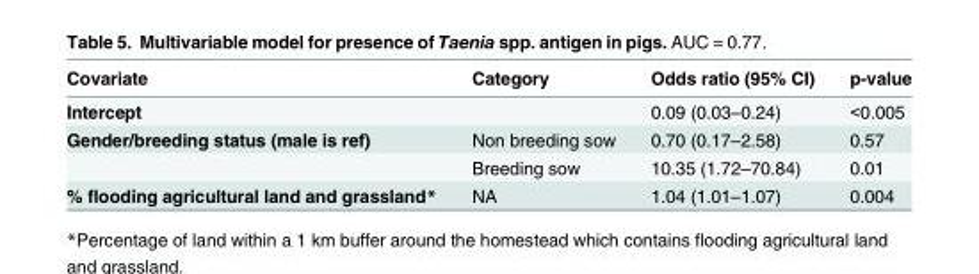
<table><thead><tr><td>Covariate</td><td>Category</td><td>Odds ratio (95% CI)</td><td>p-value</td></tr></thead><tbody><tr><td>Intercept</td><td></td><td>0.09 (0.03–0.24)</td><td>&lt;0.005</td></tr><tr><td rowspan="2">Gender/breeding status (male is ref)</td><td>Non breeding sow</td><td>0.70 (0.17–2.58)</td><td>0.57</td></tr><tr><td>Breeding sow</td><td>10.35 (1.72–70.84)</td><td>0.01</td></tr><tr><td>% flooding agricultural land and grassland*</td><td>NA</td><td>1.04 (1.01–1.07)</td><td>0.004</td></tr></tbody></table>